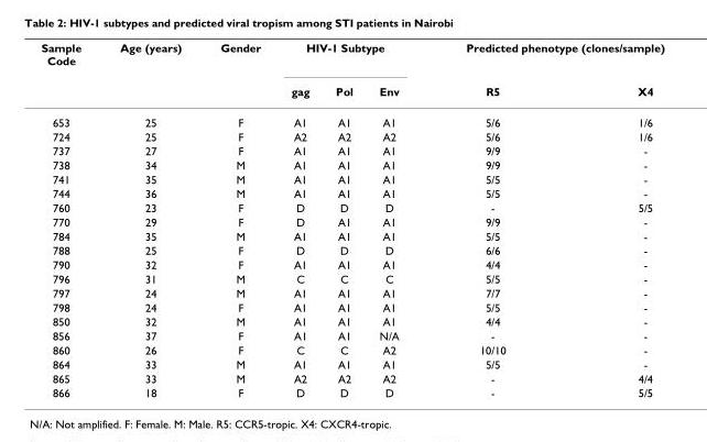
<table><thead><tr><td rowspan="2">Sample Code</td><td rowspan="2">Age (years)</td><td rowspan="2">Gender</td><td colspan="3">HIV-1 Subtype</td><td colspan="2">Predicted phenotype (clones/sample)</td></tr><tr><td>gag</td><td>Pol</td><td>Env</td><td>R5</td><td>X4</td></tr></thead><tbody><tr><td>653</td><td>25</td><td>F</td><td>A1</td><td>A1</td><td>A1</td><td>5/6</td><td>1/6</td></tr><tr><td>724</td><td>25</td><td>F</td><td>A2</td><td>A2</td><td>A2</td><td>5/6</td><td>1/6</td></tr><tr><td>737</td><td>27</td><td>F</td><td>A1</td><td>A1</td><td>A1</td><td>9/9</td><td>-</td></tr><tr><td>738</td><td>34</td><td>M</td><td>A1</td><td>A1</td><td>A1</td><td>9/9</td><td>-</td></tr><tr><td>741</td><td>35</td><td>M</td><td>A1</td><td>A1</td><td>A1</td><td>5/5</td><td>-</td></tr><tr><td>744</td><td>36</td><td>M</td><td>A1</td><td>A1</td><td>A1</td><td>5/5</td><td>-</td></tr><tr><td>760</td><td>23</td><td>F</td><td>D</td><td>D</td><td>D</td><td>-</td><td>5/5</td></tr><tr><td>770</td><td>29</td><td>F</td><td>D</td><td>A1</td><td>A1</td><td>9/9</td><td>-</td></tr><tr><td>784</td><td>35</td><td>M</td><td>A1</td><td>A1</td><td>A1</td><td>5/5</td><td>-</td></tr><tr><td>788</td><td>25</td><td>F</td><td>D</td><td>D</td><td>D</td><td>6/6</td><td>-</td></tr><tr><td>790</td><td>32</td><td>F</td><td>A1</td><td>A1</td><td>A1</td><td>4/4</td><td>-</td></tr><tr><td>796</td><td>31</td><td>M</td><td>C</td><td>C</td><td>C</td><td>5/5</td><td>-</td></tr><tr><td>797</td><td>24</td><td>M</td><td>A1</td><td>A1</td><td>A1</td><td>7/7</td><td>-</td></tr><tr><td>798</td><td>24</td><td>F</td><td>A1</td><td>A1</td><td>A1</td><td>5/5</td><td>-</td></tr><tr><td>850</td><td>32</td><td>M</td><td>A1</td><td>A1</td><td>A1</td><td>4/4</td><td>-</td></tr><tr><td>856</td><td>37</td><td>F</td><td>A1</td><td>A1</td><td>N/A</td><td>-</td><td>-</td></tr><tr><td>860</td><td>26</td><td>F</td><td>C</td><td>C</td><td>A2</td><td>10/10</td><td>-</td></tr><tr><td>864</td><td>33</td><td>M</td><td>A1</td><td>A1</td><td>A1</td><td>5/5</td><td>-</td></tr><tr><td>865</td><td>33</td><td>M</td><td>A2</td><td>A2</td><td>A2</td><td>-</td><td>4/4</td></tr><tr><td>866</td><td>18</td><td>F</td><td>D</td><td>D</td><td>D</td><td>-</td><td>5/5</td></tr></tbody></table>